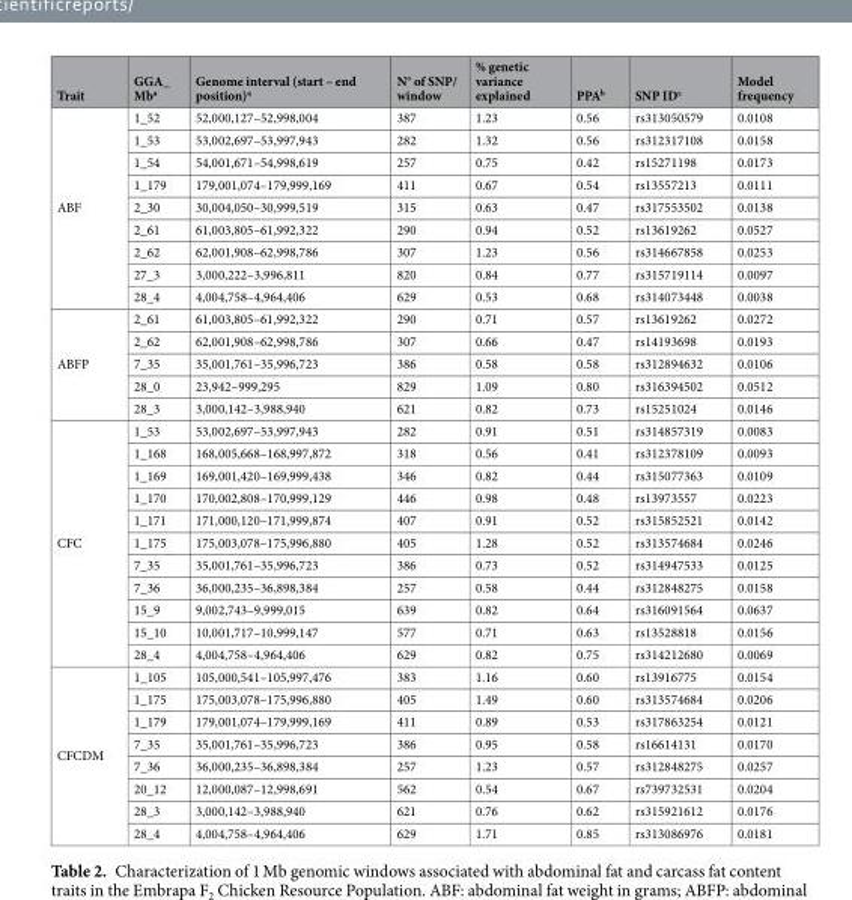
<table><thead><tr><td>Trait</td><td>GGA_ Mb<sup>a</sup></td><td>Genome interval (start – end position)<sup>a</sup></td><td>N° of SNP/ window</td><td>% genetic variance explained</td><td>PPA<sup>b</sup></td><td>SNP ID<sup>c</sup></td><td>Model frequency</td></tr></thead><tbody><tr><td rowspan="9">ABF</td><td>1_52</td><td>52,000,127–52,998,004</td><td>387</td><td>1.23</td><td>0.56</td><td>rs313050579</td><td>0.0108</td></tr><tr><td>1_53</td><td>53,002,697–53,997,943</td><td>282</td><td>1.32</td><td>0.56</td><td>rs312317108</td><td>0.0158</td></tr><tr><td>1_54</td><td>54,001,671–54,998,619</td><td>257</td><td>0.75</td><td>0.42</td><td>rs15271198</td><td>0.0173</td></tr><tr><td>1_179</td><td>179,001,074–179,999,169</td><td>411</td><td>0.67</td><td>0.54</td><td>rs13557213</td><td>0.0111</td></tr><tr><td>2_30</td><td>30,004,050–30,999,519</td><td>315</td><td>0.63</td><td>0.47</td><td>rs317553502</td><td>0.0138</td></tr><tr><td>2_61</td><td>61,003,805–61,992,322</td><td>290</td><td>0.94</td><td>0.52</td><td>rs13619262</td><td>0.0527</td></tr><tr><td>2_62</td><td>62,001,908–62,998,786</td><td>307</td><td>1.23</td><td>0.56</td><td>rs314667858</td><td>0.0253</td></tr><tr><td>27_3</td><td>3,000,222–3,996,811</td><td>820</td><td>0.84</td><td>0.77</td><td>rs315719114</td><td>0.0097</td></tr><tr><td>28_4</td><td>4,004,758–4,964,406</td><td>629</td><td>0.53</td><td>0.68</td><td>rs314073448</td><td>0.0038</td></tr><tr><td rowspan="5">ABFP</td><td>2_61</td><td>61,003,805–61,992,322</td><td>290</td><td>0.71</td><td>0.57</td><td>rs13619262</td><td>0.0272</td></tr><tr><td>2_62</td><td>62,001,908–62,998,786</td><td>307</td><td>0.66</td><td>0.47</td><td>rs14193698</td><td>0.0193</td></tr><tr><td>7_35</td><td>35,001,761–35,996,723</td><td>386</td><td>0.58</td><td>0.58</td><td>rs312894632</td><td>0.0106</td></tr><tr><td>28_0</td><td>23,942–999,295</td><td>829</td><td>1.09</td><td>0.80</td><td>rs316394502</td><td>0.0512</td></tr><tr><td>28_3</td><td>3,000,142–3,988,940</td><td>621</td><td>0.82</td><td>0.73</td><td>rs15251024</td><td>0.0146</td></tr><tr><td rowspan="11">CFC</td><td>1_53</td><td>53,002,697–53,997,943</td><td>282</td><td>0.91</td><td>0.51</td><td>rs314857319</td><td>0.0083</td></tr><tr><td>1_168</td><td>168,005,668–168,997,872</td><td>318</td><td>0.56</td><td>0.41</td><td>rs312378109</td><td>0.0093</td></tr><tr><td>1_169</td><td>169,001,420–169,999,438</td><td>346</td><td>0.82</td><td>0.44</td><td>rs315077363</td><td>0.0109</td></tr><tr><td>1_170</td><td>170,002,808–170,999,129</td><td>446</td><td>0.98</td><td>0.48</td><td>rs13973557</td><td>0.0223</td></tr><tr><td>1_171</td><td>171,000,120–171,999,874</td><td>407</td><td>0.91</td><td>0.52</td><td>rs315852521</td><td>0.0142</td></tr><tr><td>1_175</td><td>175,003,078–175,996,880</td><td>405</td><td>1.28</td><td>0.52</td><td>rs313574684</td><td>0.0246</td></tr><tr><td>7_35</td><td>35,001,761–35,996,723</td><td>386</td><td>0.73</td><td>0.52</td><td>rs314947533</td><td>0.0125</td></tr><tr><td>7_36</td><td>36,000,235–36,898,384</td><td>257</td><td>0.58</td><td>0.44</td><td>rs312848275</td><td>0.0158</td></tr><tr><td>15_9</td><td>9,002,743–9,999,015</td><td>639</td><td>0.82</td><td>0.64</td><td>rs316091564</td><td>0.0637</td></tr><tr><td>15_10</td><td>10,001,717–10,999,147</td><td>577</td><td>0.71</td><td>0.63</td><td>rs13528818</td><td>0.0156</td></tr><tr><td>28_4</td><td>4,004,758–4,964,406</td><td>629</td><td>0.82</td><td>0.75</td><td>rs314212680</td><td>0.0069</td></tr><tr><td rowspan="8">CFCDM</td><td>1_105</td><td>105,000,541–105,997,476</td><td>383</td><td>1.16</td><td>0.60</td><td>rs13916775</td><td>0.0154</td></tr><tr><td>1_175</td><td>175,003,078–175,996,880</td><td>405</td><td>1.49</td><td>0.60</td><td>rs313574684</td><td>0.0206</td></tr><tr><td>1_179</td><td>179,001,074–179,999,169</td><td>411</td><td>0.89</td><td>0.53</td><td>rs317863254</td><td>0.0121</td></tr><tr><td>7_35</td><td>35,001,761–35,996,723</td><td>386</td><td>0.95</td><td>0.58</td><td>rs16614131</td><td>0.0170</td></tr><tr><td>7_36</td><td>36,000,235–36,898,384</td><td>257</td><td>1.23</td><td>0.57</td><td>rs312848275</td><td>0.0257</td></tr><tr><td>20_12</td><td>12,000,087–12,998,691</td><td>562</td><td>0.54</td><td>0.67</td><td>rs739732531</td><td>0.0204</td></tr><tr><td>28_3</td><td>3,000,142–3,988,940</td><td>621</td><td>0.76</td><td>0.62</td><td>rs315921612</td><td>0.0176</td></tr><tr><td>28_4</td><td>4,004,758–4,964,406</td><td>629</td><td>1.71</td><td>0.85</td><td>rs313086976</td><td>0.0181</td></tr></tbody></table>